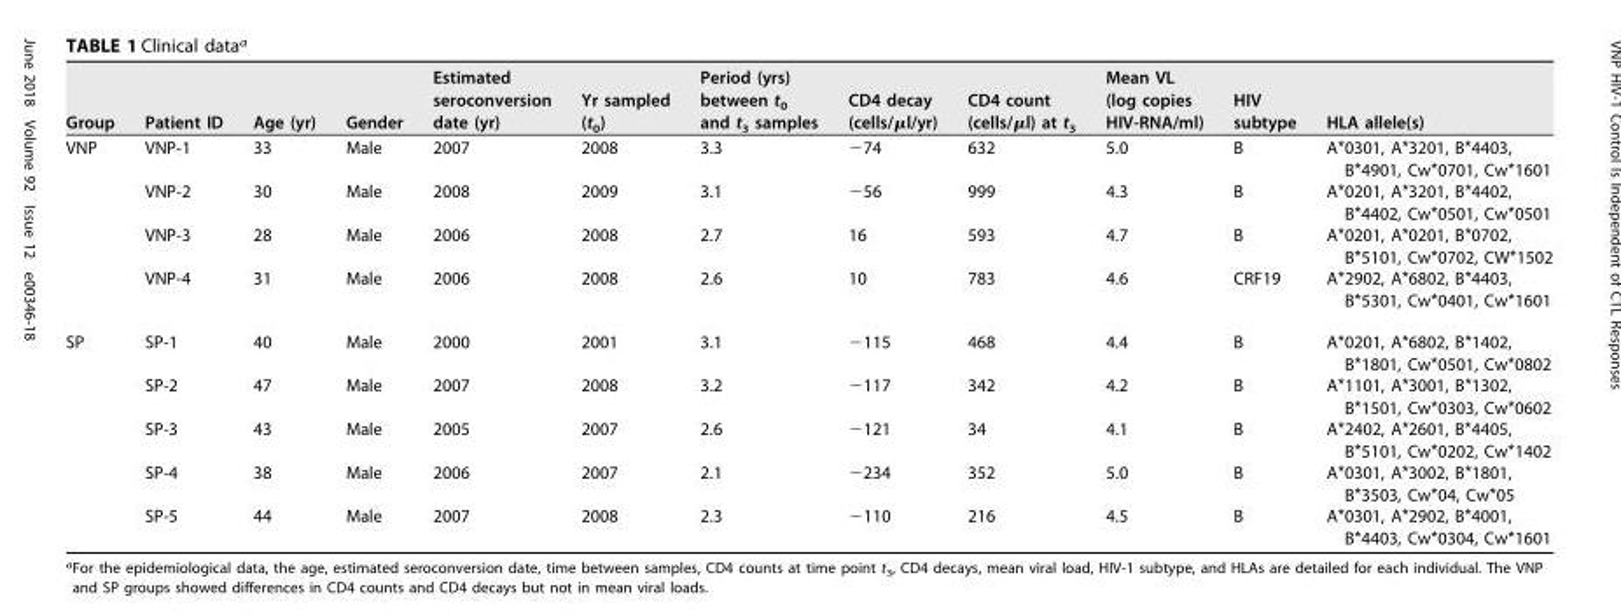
<table><thead><tr><td>Group</td><td>Patient ID</td><td>Age (yr)</td><td>Gender</td><td>Estimated seroconversion date (yr)</td><td>Yr sampled (t<sub>0</sub>)</td><td>Period (yrs) between t<sub>0</sub> and t<sub>3</sub> samples</td><td>CD4 decay (cells/μl/yr)</td><td>CD4 count (cells/μl) at t<sub>3</sub></td><td>Mean VL (log copies HIV-RNA/ml)</td><td>HIV subtype</td><td>HLA allele(s)</td></tr></thead><tbody><tr><td rowspan="4">VNP</td><td>VNP-1</td><td>33</td><td>Male</td><td>2007</td><td>2008</td><td>3.3</td><td>−74</td><td>632</td><td>5.0</td><td>B</td><td>A*0301, A*3201, B*4403, B*4901, Cw*0701, Cw*1601</td></tr><tr><td>VNP-2</td><td>30</td><td>Male</td><td>2008</td><td>2009</td><td>3.1</td><td>−56</td><td>999</td><td>4.3</td><td>B</td><td>A*0201, A*3201, B*4402, B*4402, Cw*0501, Cw*0501</td></tr><tr><td>VNP-3</td><td>28</td><td>Male</td><td>2006</td><td>2008</td><td>2.7</td><td>16</td><td>593</td><td>4.7</td><td>B</td><td>A*0201, A*0201, B*0702, B*5101, Cw*0702, CW*1502</td></tr><tr><td>VNP-4</td><td>31</td><td>Male</td><td>2006</td><td>2008</td><td>2.6</td><td>10</td><td>783</td><td>4.6</td><td>CRF19</td><td>A*2902, A*6802, B*4403, B*5301, Cw*0401, Cw*1601</td></tr><tr><td rowspan="5">SP</td><td>SP-1</td><td>40</td><td>Male</td><td>2000</td><td>2001</td><td>3.1</td><td>−115</td><td>468</td><td>4.4</td><td>B</td><td>A*0201, A*6802, B*1402, B*1801, Cw*0501, Cw*0802</td></tr><tr><td>SP-2</td><td>47</td><td>Male</td><td>2007</td><td>2008</td><td>3.2</td><td>−117</td><td>342</td><td>4.2</td><td>B</td><td>A*1101, A*3001, B*1302, B*1501, Cw*0303, Cw*0602</td></tr><tr><td>SP-3</td><td>43</td><td>Male</td><td>2005</td><td>2007</td><td>2.6</td><td>−121</td><td>34</td><td>4.1</td><td>B</td><td>A*2402, A*2601, B*4405, B*5101, Cw*0202, Cw*1402</td></tr><tr><td>SP-4</td><td>38</td><td>Male</td><td>2006</td><td>2007</td><td>2.1</td><td>−234</td><td>352</td><td>5.0</td><td>B</td><td>A*0301, A*3002, B*1801, B*3503, Cw*04, Cw*05</td></tr><tr><td>SP-5</td><td>44</td><td>Male</td><td>2007</td><td>2008</td><td>2.3</td><td>−110</td><td>216</td><td>4.5</td><td>B</td><td>A*0301, A*2902, B*4001, B*4403, Cw*0304, Cw*1601</td></tr></tbody></table>